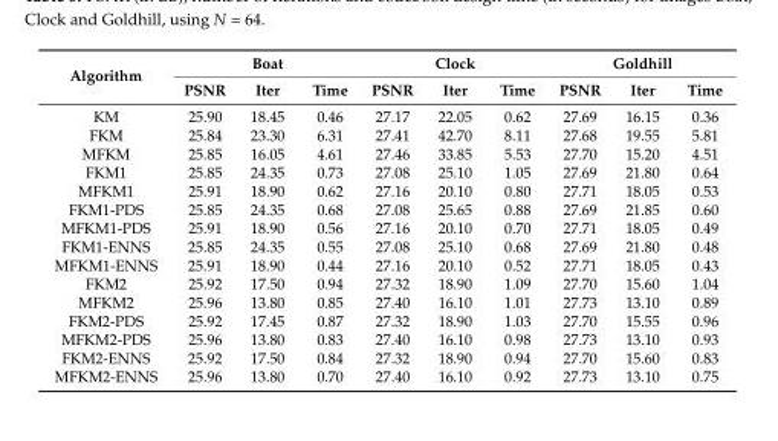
<table><thead><tr><td rowspan="2">Algorithm</td><td colspan="3">Boat</td><td colspan="3">Clock</td><td colspan="3">Goldhill</td></tr><tr><td>PSNR</td><td>Iter</td><td>Time</td><td>PSNR</td><td>Iter</td><td>Time</td><td>PSNR</td><td>Iter</td><td>Time</td></tr></thead><tbody><tr><td>KM</td><td>25.90</td><td>18.45</td><td>0.46</td><td>27.17</td><td>22.05</td><td>0.62</td><td>27.69</td><td>16.15</td><td>0.36</td></tr><tr><td>FKM</td><td>25.84</td><td>23.30</td><td>6.31</td><td>27.41</td><td>42.70</td><td>8.11</td><td>27.68</td><td>19.55</td><td>5.81</td></tr><tr><td>MFKM</td><td>25.85</td><td>16.05</td><td>4.61</td><td>27.46</td><td>33.85</td><td>5.53</td><td>27.70</td><td>15.20</td><td>4.51</td></tr><tr><td>FKM1</td><td>25.85</td><td>24.35</td><td>0.73</td><td>27.08</td><td>25.10</td><td>1.05</td><td>27.69</td><td>21.80</td><td>0.64</td></tr><tr><td>MFKM1</td><td>25.91</td><td>18.90</td><td>0.62</td><td>27.16</td><td>20.10</td><td>0.80</td><td>27.71</td><td>18.05</td><td>0.53</td></tr><tr><td>FKM1-PDS</td><td>25.85</td><td>24.35</td><td>0.68</td><td>27.08</td><td>25.65</td><td>0.88</td><td>27.69</td><td>21.85</td><td>0.60</td></tr><tr><td>MFKM1-PDS</td><td>25.91</td><td>18.90</td><td>0.56</td><td>27.16</td><td>20.10</td><td>0.70</td><td>27.71</td><td>18.05</td><td>0.49</td></tr><tr><td>FKM1-ENNS</td><td>25.85</td><td>24.35</td><td>0.55</td><td>27.08</td><td>25.10</td><td>0.68</td><td>27.69</td><td>21.80</td><td>0.48</td></tr><tr><td>MFKM1-ENNS</td><td>25.91</td><td>18.90</td><td>0.44</td><td>27.16</td><td>20.10</td><td>0.52</td><td>27.71</td><td>18.05</td><td>0.43</td></tr><tr><td>FKM2</td><td>25.92</td><td>17.50</td><td>0.94</td><td>27.32</td><td>18.90</td><td>1.09</td><td>27.70</td><td>15.60</td><td>1.04</td></tr><tr><td>MFKM2</td><td>25.96</td><td>13.80</td><td>0.85</td><td>27.40</td><td>16.10</td><td>1.01</td><td>27.73</td><td>13.10</td><td>0.89</td></tr><tr><td>FKM2-PDS</td><td>25.92</td><td>17.45</td><td>0.87</td><td>27.32</td><td>18.90</td><td>1.03</td><td>27.70</td><td>15.55</td><td>0.96</td></tr><tr><td>MFKM2-PDS</td><td>25.96</td><td>13.80</td><td>0.83</td><td>27.40</td><td>16.10</td><td>0.98</td><td>27.73</td><td>13.10</td><td>0.93</td></tr><tr><td>FKM2-ENNS</td><td>25.92</td><td>17.50</td><td>0.84</td><td>27.32</td><td>18.90</td><td>0.94</td><td>27.70</td><td>15.60</td><td>0.83</td></tr><tr><td>MFKM2-ENNS</td><td>25.96</td><td>13.80</td><td>0.70</td><td>27.40</td><td>16.10</td><td>0.92</td><td>27.73</td><td>13.10</td><td>0.75</td></tr></tbody></table>